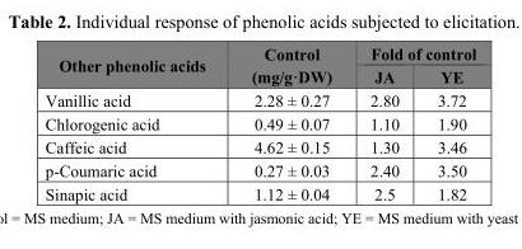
<table><thead><tr><td rowspan="2">Other phenolic acids</td><td rowspan="2">Control (mg/g·DW)</td><td colspan="2">Fold of control</td></tr><tr><td>JA</td><td>YE</td></tr></thead><tbody><tr><td>Vanillic acid</td><td>2.28 ± 0.27</td><td>2.80</td><td>3.72</td></tr><tr><td>Chlorogenic acid</td><td>0.49 ± 0.07</td><td>1.10</td><td>1.90</td></tr><tr><td>Caffeic acid</td><td>4.62 ± 0.15</td><td>1.30</td><td>3.46</td></tr><tr><td>p-Coumaric acid</td><td>0.27 ± 0.03</td><td>2.40</td><td>3.50</td></tr><tr><td>Sinapic acid</td><td>1.12 ± 0.04</td><td>2.5</td><td>1.82</td></tr></tbody></table>